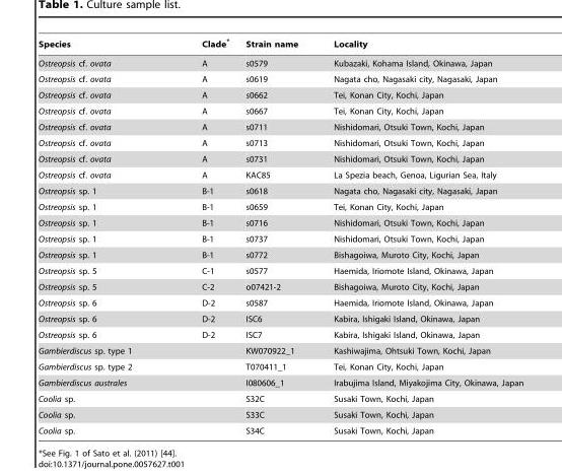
<table><thead><tr><td>Species</td><td>Clade*</td><td>Strain name</td><td>Locality</td></tr></thead><tbody><tr><td>Ostreopsis cf. ovata</td><td>A</td><td>s0579</td><td>Kubazaki, Kohama Island, Okinawa, Japan</td></tr><tr><td>Ostreopsis cf. ovata</td><td>A</td><td>s0619</td><td>Nagata cho, Nagasaki city, Nagasaki, Japan</td></tr><tr><td>Ostreopsis cf. ovata</td><td>A</td><td>s0662</td><td>Tei, Konan City, Kochi, Japan</td></tr><tr><td>Ostreopsis cf. ovata</td><td>A</td><td>s0667</td><td>Tei, Konan City, Kochi, Japan</td></tr><tr><td>Ostreopsis cf. ovata</td><td>A</td><td>s0711</td><td>Nishidomari, Otsuki Town, Kochi, Japan</td></tr><tr><td>Ostreopsis cf. ovata</td><td>A</td><td>s0713</td><td>Nishidomari, Otsuki Town, Kochi, Japan</td></tr><tr><td>Ostreopsis cf. ovata</td><td>A</td><td>s0731</td><td>Nishidomari, Otsuki Town, Kochi, Japan</td></tr><tr><td>Ostreopsis cf. ovata</td><td>A</td><td>KAC85</td><td>La Spezia beach, Genoa, Ligurian Sea, Italy</td></tr><tr><td>Ostreopsis sp. 1</td><td>B-1</td><td>s0618</td><td>Nagata cho, Nagasaki city, Nagasaki, Japan</td></tr><tr><td>Ostreopsis sp. 1</td><td>B-1</td><td>s0659</td><td>Tei, Konan City, Kochi, Japan</td></tr><tr><td>Ostreopsis sp. 1</td><td>B-1</td><td>s0716</td><td>Nishidomari, Otsuki Town, Kochi, Japan</td></tr><tr><td>Ostreopsis sp. 1</td><td>B-1</td><td>s0737</td><td>Nishidomari, Otsuki Town, Kochi, Japan</td></tr><tr><td>Ostreopsis sp. 1</td><td>B-1</td><td>s0772</td><td>Bishagoiwa, Muroto City, Kochi, Japan</td></tr><tr><td>Ostreopsis sp. 5</td><td>C-1</td><td>s0577</td><td>Haemida, Iriomote Island, Okinawa, Japan</td></tr><tr><td>Ostreopsis sp. 5</td><td>C-2</td><td>o07421-2</td><td>Bishagoiwa, Muroto City, Kochi, Japan</td></tr><tr><td>Ostreopsis sp. 6</td><td>D-2</td><td>s0587</td><td>Haemida, Iriomote Island, Okinawa, Japan</td></tr><tr><td>Ostreopsis sp. 6</td><td>D-2</td><td>ISC6</td><td>Kabira, Ishigaki Island, Okinawa, Japan</td></tr><tr><td>Ostreopsis sp. 6</td><td>D-2</td><td>ISC7</td><td>Kabira, Ishigaki Island, Okinawa, Japan</td></tr><tr><td>Gambierdiscus sp. type 1</td><td></td><td>KW070922_1</td><td>Kashiwajima, Ohtsuki Town, Kochi, Japan</td></tr><tr><td>Gambierdiscus sp. type 2</td><td></td><td>T070411_1</td><td>Tei, Konan City, Kochi, Japan</td></tr><tr><td>Gambierdiscus australes</td><td></td><td>I080606_1</td><td>Irabujima Island, Miyakojima City, Okinawa, Japan</td></tr><tr><td>Coolia sp.</td><td></td><td>S32C</td><td>Susaki Town, Kochi, Japan</td></tr><tr><td>Coolia sp.</td><td></td><td>S33C</td><td>Susaki Town, Kochi, Japan</td></tr><tr><td>Coolia sp.</td><td></td><td>S34C</td><td>Susaki Town, Kochi, Japan</td></tr></tbody></table>